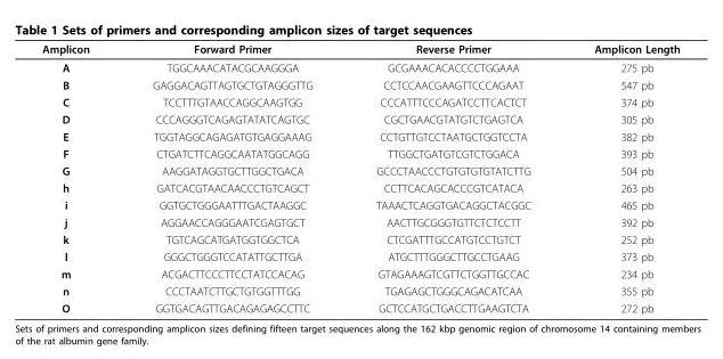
<table><thead><tr><td>Amplicon</td><td>Forward Primer</td><td>Reverse Primer</td><td>Amplicon Length</td></tr></thead><tbody><tr><td>A</td><td>TGGCAAACATACGCAAGGGA</td><td>GCGAAACACACCCCTGGAAA</td><td>275 pb</td></tr><tr><td>B</td><td>GAGGACAGTTAGTGCTGTAGGGTTG</td><td>CCTCCAACGAAGTTCCCAGAAT</td><td>547 pb</td></tr><tr><td>C</td><td>TCCTTTGTAACCAGGCAAGTGG</td><td>CCCATTTCCCAGATCCTTCACTCT</td><td>374 pb</td></tr><tr><td>D</td><td>CCCAGGGTCAGAGTATATCAGTGC</td><td>CGCTGAACGTATGTCTGAGTCA</td><td>305 pb</td></tr><tr><td>E</td><td>TGGTAGGCAGAGATGTGAGGAAAG</td><td>CCTGTTGTCCTAATGCTGGTCCTA</td><td>382 pb</td></tr><tr><td>F</td><td>CTGATCTTCAGGCAATATGGCAGG</td><td>TTGGCTGATGTCGTCTGGACA</td><td>393 pb</td></tr><tr><td>G</td><td>AAGGATAGGTGCTTGGCTGACA</td><td>GCCCTAACCCTGTGTGTGTATCTTG</td><td>504 pb</td></tr><tr><td>h</td><td>GATCACGTAACAACCCTGTCAGCT</td><td>CCTTCACAGCACCCGTCATACA</td><td>263 pb</td></tr><tr><td>i</td><td>GGTGCTGGGAATTTGACTAAGGC</td><td>TAAACTCAGGTGACAGGCTACGGC</td><td>465 pb</td></tr><tr><td>j</td><td>AGGAACCAGGGAATCGAGTGCT</td><td>AACTTGCGGGTGTTCTCTCCTT</td><td>392 pb</td></tr><tr><td>k</td><td>TGTCAGCATGATGGTGGCTCA</td><td>CTCGATTTGCCATGTCCTGTCT</td><td>252 pb</td></tr><tr><td>l</td><td>GGGCTGGGTCCATATTGCTTGA</td><td>ATGCTTTGGGCTTGCCTGAAG</td><td>373 pb</td></tr><tr><td>m</td><td>ACGACTTCCCTTCCTATCCACAG</td><td>GTAGAAAGTCGTTCTGGTTGCCAC</td><td>234 pb</td></tr><tr><td>n</td><td>CCCTAATCTTGCTGTGGTTTGG</td><td>TGAGAGCTGGGCAGACATCAA</td><td>355 pb</td></tr><tr><td>O</td><td>GGTGACAGTTGACAGAGAGCCTTC</td><td>GCTCCATGCTGACCTTGAAGTCTA</td><td>272 pb</td></tr></tbody></table>